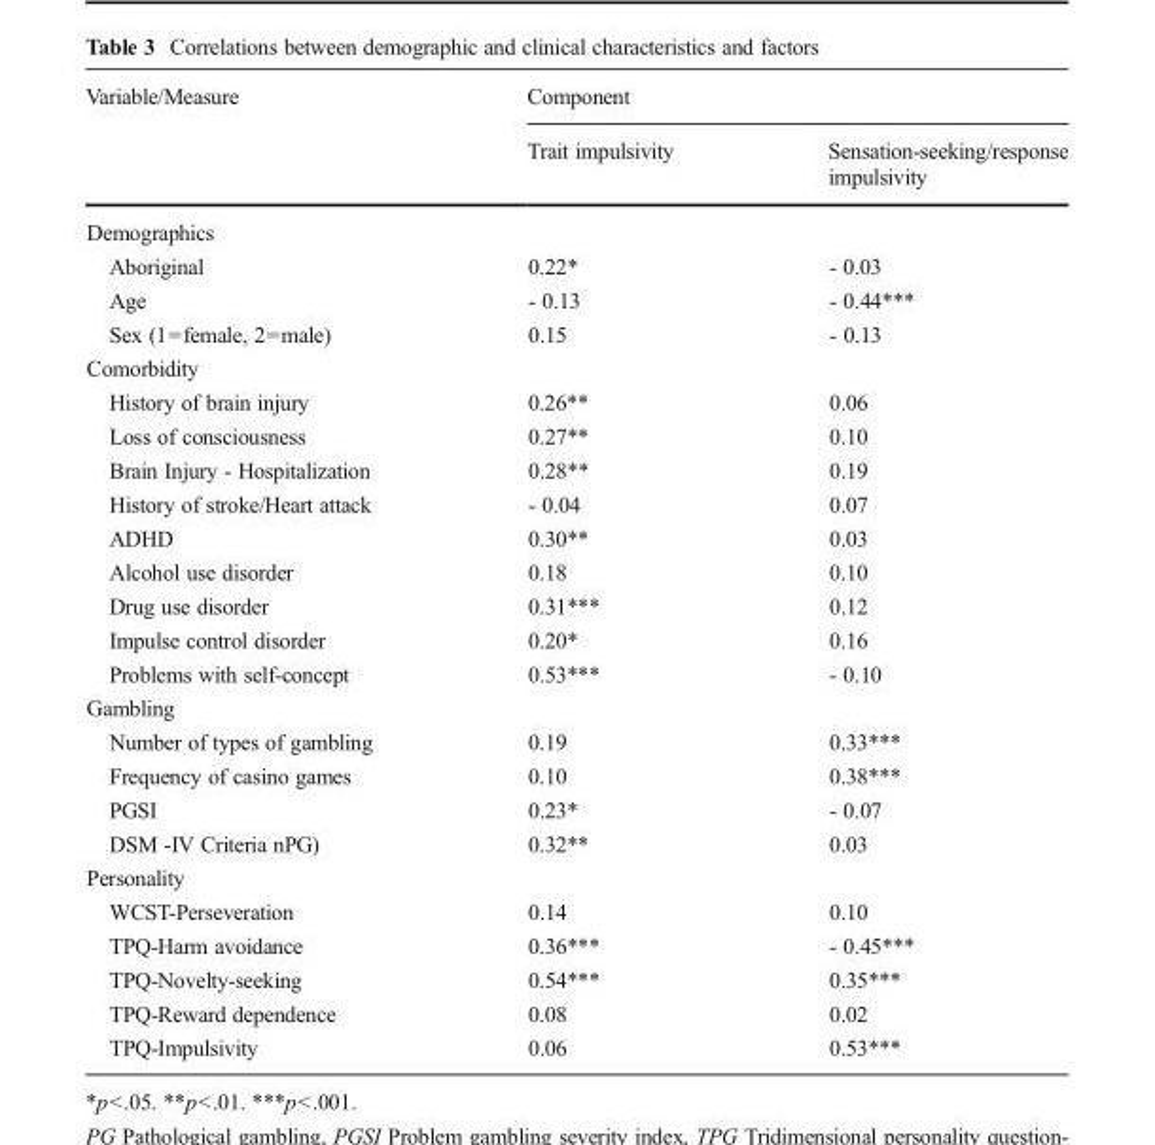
<table><thead><tr><td rowspan="2">Variable/Measure</td><td colspan="2">Component</td></tr><tr><td>Trait impulsivity</td><td>Sensation-seeking/response impulsivity</td></tr></thead><tbody><tr><td colspan="3">Demographics</td></tr><tr><td>Aboriginal</td><td>0.22*</td><td>- 0.03</td></tr><tr><td>Age</td><td>- 0.13</td><td>- 0.44***</td></tr><tr><td>Sex (1=female, 2=male)</td><td>0.15</td><td>- 0.13</td></tr><tr><td colspan="3">Comorbidity</td></tr><tr><td>History of brain injury</td><td>0.26**</td><td>0.06</td></tr><tr><td>Loss of consciousness</td><td>0.27**</td><td>0.10</td></tr><tr><td>Brain Injury - Hospitalization</td><td>0.28**</td><td>0.19</td></tr><tr><td>History of stroke/Heart attack</td><td>- 0.04</td><td>0.07</td></tr><tr><td>ADHD</td><td>0.30**</td><td>0.03</td></tr><tr><td>Alcohol use disorder</td><td>0.18</td><td>0.10</td></tr><tr><td>Drug use disorder</td><td>0.31***</td><td>0.12</td></tr><tr><td>Impulse control disorder</td><td>0.20*</td><td>0.16</td></tr><tr><td>Problems with self-concept</td><td>0.53***</td><td>- 0.10</td></tr><tr><td colspan="3">Gambling</td></tr><tr><td>Number of types of gambling</td><td>0.19</td><td>0.33***</td></tr><tr><td>Frequency of casino games</td><td>0.10</td><td>0.38***</td></tr><tr><td>PGSI</td><td>0.23*</td><td>- 0.07</td></tr><tr><td>DSM -IV Criteria nPG)</td><td>0.32**</td><td>0.03</td></tr><tr><td colspan="3">Personality</td></tr><tr><td>WCST-Perseveration</td><td>0.14</td><td>0.10</td></tr><tr><td>TPQ-Harm avoidance</td><td>0.36***</td><td>- 0.45***</td></tr><tr><td>TPQ-Novelty-seeking</td><td>0.54***</td><td>0.35***</td></tr><tr><td>TPQ-Reward dependence</td><td>0.08</td><td>0.02</td></tr><tr><td>TPQ-Impulsivity</td><td>0.06</td><td>0.53***</td></tr></tbody></table>